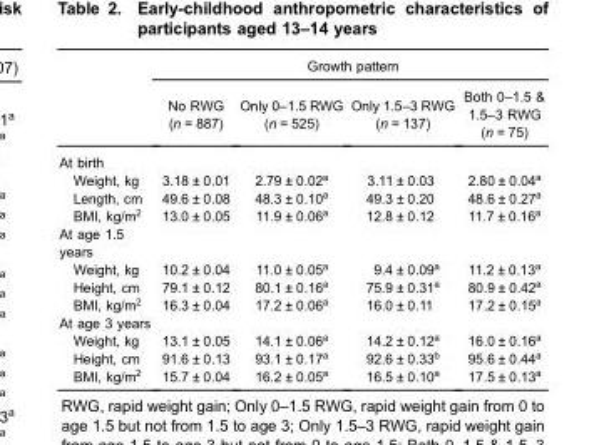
<table><thead><tr><td rowspan="2"></td><td colspan="4">Growth pattern</td></tr><tr><td>No RWG (n = 887)</td><td>Only 0–1.5 RWG (n = 525)</td><td>Only 1.5–3 RWG (n = 137)</td><td>Both 0–1.5 &amp; 1.5–3 RWG (n = 75)</td></tr></thead><tbody><tr><td colspan="5">At birth</td></tr><tr><td>Weight, kg</td><td>3.18 ± 0.01</td><td>2.79 ± 0.02<sup>a</sup></td><td>3.11 ± 0.03</td><td>2.80 ± 0.04<sup>a</sup></td></tr><tr><td>Length, cm</td><td>49.6 ± 0.08</td><td>48.3 ± 0.10<sup>a</sup></td><td>49.3 ± 0.20</td><td>48.6 ± 0.27<sup>a</sup></td></tr><tr><td>BMI, kg/m<sup>2</sup></td><td>13.0 ± 0.05</td><td>11.9 ± 0.06<sup>a</sup></td><td>12.8 ± 0.12</td><td>11.7 ± 0.16<sup>a</sup></td></tr><tr><td colspan="5">At age 1.5 years</td></tr><tr><td>Weight, kg</td><td>10.2 ± 0.04</td><td>11.0 ± 0.05<sup>a</sup></td><td>9.4 ± 0.09<sup>a</sup></td><td>11.2 ± 0.13<sup>a</sup></td></tr><tr><td>Height, cm</td><td>79.1 ± 0.12</td><td>80.1 ± 0.16<sup>a</sup></td><td>75.9 ± 0.31<sup>a</sup></td><td>80.9 ± 0.42<sup>a</sup></td></tr><tr><td>BMI, kg/m<sup>2</sup></td><td>16.3 ± 0.04</td><td>17.2 ± 0.06<sup>a</sup></td><td>16.0 ± 0.11</td><td>17.2 ± 0.15<sup>a</sup></td></tr><tr><td colspan="5">At age 3 years</td></tr><tr><td>Weight, kg</td><td>13.1 ± 0.05</td><td>14.1 ± 0.06<sup>a</sup></td><td>14.2 ± 0.12<sup>a</sup></td><td>16.0 ± 0.16<sup>a</sup></td></tr><tr><td>Height, cm</td><td>91.6 ± 0.13</td><td>93.1 ± 0.17<sup>a</sup></td><td>92.6 ± 0.33<sup>b</sup></td><td>95.6 ± 0.44<sup>a</sup></td></tr><tr><td>BMI, kg/m<sup>2</sup></td><td>15.7 ± 0.04</td><td>16.2 ± 0.05<sup>a</sup></td><td>16.5 ± 0.10<sup>a</sup></td><td>17.5 ± 0.13<sup>a</sup></td></tr></tbody></table>